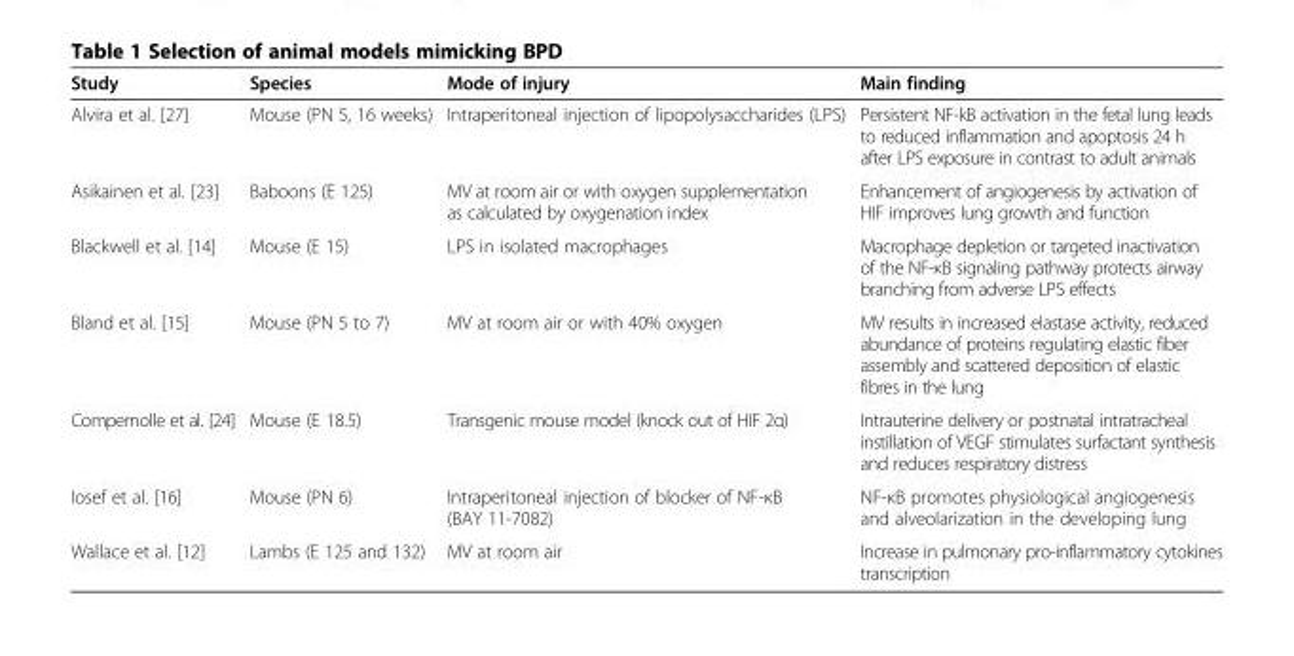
<table><thead><tr><td>Study</td><td>Species</td><td>Mode of injury</td><td>Main finding</td></tr></thead><tbody><tr><td>Alvira et al. [27]</td><td>Mouse (PN 5, 16 weeks)</td><td>Intraperitoneal injection of lipopolysaccharides (LPS)</td><td>Persistent NF-kB activation in the fetal lung leads to reduced inflammation and apoptosis 24 h after LPS exposure in contrast to adult animals</td></tr><tr><td>Asikainen et al. [23]</td><td>Baboons (E 125)</td><td>MV at room air or with oxygen supplementation as calculated by oxygenation index</td><td>Enhancement of angiogenesis by activation of HIF improves lung growth and function</td></tr><tr><td>Blackwell et al. [14]</td><td>Mouse (E 15)</td><td>LPS in isolated macrophages</td><td>Macrophage depletion or targeted inactivation of the NF-κB signaling pathway protects airway branching from adverse LPS effects</td></tr><tr><td>Bland et al. [15]</td><td>Mouse (PN 5 to 7)</td><td>MV at room air or with 40% oxygen</td><td>MV results in increased elastase activity, reduced abundance of proteins regulating elastic fiber assembly and scattered deposition of elastic fibres in the lung</td></tr><tr><td>Compernolle et al. [24]</td><td>Mouse (E 18.5)</td><td>Transgenic mouse model (knock out of HIF 2α)</td><td>Intrauterine delivery or postnatal intratracheal instillation of VEGF stimulates surfactant synthesis and reduces respiratory distress</td></tr><tr><td>Iosef et al. [16]</td><td>Mouse (PN 6)</td><td>Intraperitoneal injection of blocker of NF-κB (BAY 11-7082)</td><td>NF-κB promotes physiological angiogenesis and alveolarization in the developing lung</td></tr><tr><td>Wallace et al. [12]</td><td>Lambs (E 125 and 132)</td><td>MV at room air</td><td>Increase in pulmonary pro-inflammatory cytokines transcription</td></tr></tbody></table>